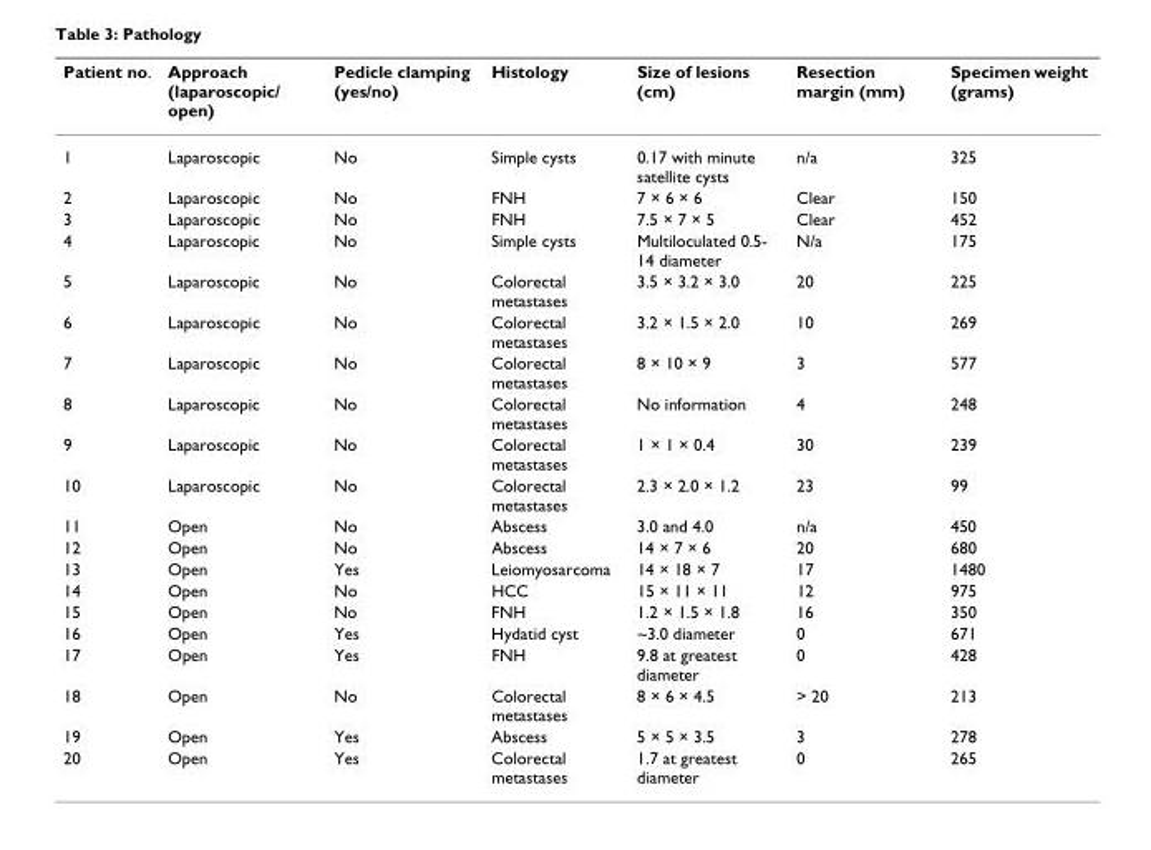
<table><thead><tr><td>Patient no.</td><td>Approach (laparoscopic/ open)</td><td>Pedicle clamping (yes/no)</td><td>Histology</td><td>Size of lesions (cm)</td><td>Resection margin (mm)</td><td>Specimen weight (grams)</td></tr></thead><tbody><tr><td>1</td><td>Laparoscopic</td><td>No</td><td>Simple cysts</td><td>0.17 with minute satellite cysts</td><td>n/a</td><td>325</td></tr><tr><td>2</td><td>Laparoscopic</td><td>No</td><td>FNH</td><td>7 × 6 × 6</td><td>Clear</td><td>150</td></tr><tr><td>3</td><td>Laparoscopic</td><td>No</td><td>FNH</td><td>7.5 × 7 × 5</td><td>Clear</td><td>452</td></tr><tr><td>4</td><td>Laparoscopic</td><td>No</td><td>Simple cysts</td><td>Multiloculated 0.5- 14 diameter</td><td>N/a</td><td>175</td></tr><tr><td>5</td><td>Laparoscopic</td><td>No</td><td>Colorectal metastases</td><td>3.5 × 3.2 × 3.0</td><td>20</td><td>225</td></tr><tr><td>6</td><td>Laparoscopic</td><td>No</td><td>Colorectal metastases</td><td>3.2 × 1.5 × 2.0</td><td>10</td><td>269</td></tr><tr><td>7</td><td>Laparoscopic</td><td>No</td><td>Colorectal metastases</td><td>8 × 10 × 9</td><td>3</td><td>577</td></tr><tr><td>8</td><td>Laparoscopic</td><td>No</td><td>Colorectal metastases</td><td>No information</td><td>4</td><td>248</td></tr><tr><td>9</td><td>Laparoscopic</td><td>No</td><td>Colorectal metastases</td><td>1 × 1 × 0.4</td><td>30</td><td>239</td></tr><tr><td>10</td><td>Laparoscopic</td><td>No</td><td>Colorectal metastases</td><td>2.3 × 2.0 × 1.2</td><td>23</td><td>99</td></tr><tr><td>11</td><td>Open</td><td>No</td><td>Abscess</td><td>3.0 and 4.0</td><td>n/a</td><td>450</td></tr><tr><td>12</td><td>Open</td><td>No</td><td>Abscess</td><td>14 × 7 × 6</td><td>20</td><td>680</td></tr><tr><td>13</td><td>Open</td><td>Yes</td><td>Leiomyosarcoma</td><td>14 × 18 × 7</td><td>17</td><td>1480</td></tr><tr><td>14</td><td>Open</td><td>No</td><td>HCC</td><td>15 × 11 × 11</td><td>12</td><td>975</td></tr><tr><td>15</td><td>Open</td><td>No</td><td>FNH</td><td>1.2 × 1.5 × 1.8</td><td>16</td><td>350</td></tr><tr><td>16</td><td>Open</td><td>Yes</td><td>Hydatid cyst</td><td>~3.0 diameter</td><td>0</td><td>671</td></tr><tr><td>17</td><td>Open</td><td>Yes</td><td>FNH</td><td>9.8 at greatest diameter</td><td>0</td><td>428</td></tr><tr><td>18</td><td>Open</td><td>No</td><td>Colorectal metastases</td><td>8 × 6 × 4.5</td><td>&gt; 20</td><td>213</td></tr><tr><td>19</td><td>Open</td><td>Yes</td><td>Abscess</td><td>5 × 5 × 3.5</td><td>3</td><td>278</td></tr><tr><td>20</td><td>Open</td><td>Yes</td><td>Colorectal metastases</td><td>1.7 at greatest diameter</td><td>0</td><td>265</td></tr></tbody></table>